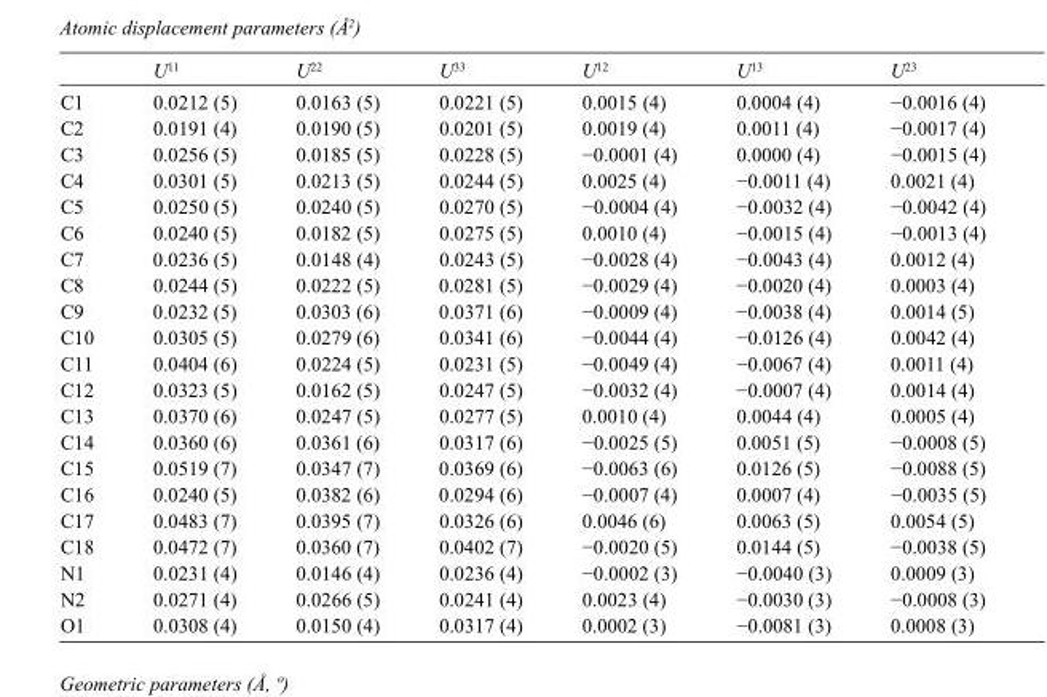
<table><thead><tr><td></td><td>U<sup>11</sup></td><td>U<sup>22</sup></td><td>U<sup>33</sup></td><td>U<sup>12</sup></td><td>U<sup>13</sup></td><td>U<sup>23</sup></td></tr></thead><tbody><tr><td>C1</td><td>0.0212 (5)</td><td>0.0163 (5)</td><td>0.0221 (5)</td><td>0.0015 (4)</td><td>0.0004 (4)</td><td>−0.0016 (4)</td></tr><tr><td>C2</td><td>0.0191 (4)</td><td>0.0190 (5)</td><td>0.0201 (5)</td><td>0.0019 (4)</td><td>0.0011 (4)</td><td>−0.0017 (4)</td></tr><tr><td>C3</td><td>0.0256 (5)</td><td>0.0185 (5)</td><td>0.0228 (5)</td><td>−0.0001 (4)</td><td>0.0000 (4)</td><td>−0.0015 (4)</td></tr><tr><td>C4</td><td>0.0301 (5)</td><td>0.0213 (5)</td><td>0.0244 (5)</td><td>0.0025 (4)</td><td>−0.0011 (4)</td><td>0.0021 (4)</td></tr><tr><td>C5</td><td>0.0250 (5)</td><td>0.0240 (5)</td><td>0.0270 (5)</td><td>−0.0004 (4)</td><td>−0.0032 (4)</td><td>−0.0042 (4)</td></tr><tr><td>C6</td><td>0.0240 (5)</td><td>0.0182 (5)</td><td>0.0275 (5)</td><td>0.0010 (4)</td><td>−0.0015 (4)</td><td>−0.0013 (4)</td></tr><tr><td>C7</td><td>0.0236 (5)</td><td>0.0148 (4)</td><td>0.0243 (5)</td><td>−0.0028 (4)</td><td>−0.0043 (4)</td><td>0.0012 (4)</td></tr><tr><td>C8</td><td>0.0244 (5)</td><td>0.0222 (5)</td><td>0.0281 (5)</td><td>−0.0029 (4)</td><td>−0.0020 (4)</td><td>0.0003 (4)</td></tr><tr><td>C9</td><td>0.0232 (5)</td><td>0.0303 (6)</td><td>0.0371 (6)</td><td>−0.0009 (4)</td><td>−0.0038 (4)</td><td>0.0014 (5)</td></tr><tr><td>C10</td><td>0.0305 (5)</td><td>0.0279 (6)</td><td>0.0341 (6)</td><td>−0.0044 (4)</td><td>−0.0126 (4)</td><td>0.0042 (4)</td></tr><tr><td>C11</td><td>0.0404 (6)</td><td>0.0224 (5)</td><td>0.0231 (5)</td><td>−0.0049 (4)</td><td>−0.0067 (4)</td><td>0.0011 (4)</td></tr><tr><td>C12</td><td>0.0323 (5)</td><td>0.0162 (5)</td><td>0.0247 (5)</td><td>−0.0032 (4)</td><td>−0.0007 (4)</td><td>0.0014 (4)</td></tr><tr><td>C13</td><td>0.0370 (6)</td><td>0.0247 (5)</td><td>0.0277 (5)</td><td>0.0010 (4)</td><td>0.0044 (4)</td><td>0.0005 (4)</td></tr><tr><td>C14</td><td>0.0360 (6)</td><td>0.0361 (6)</td><td>0.0317 (6)</td><td>−0.0025 (5)</td><td>0.0051 (5)</td><td>−0.0008 (5)</td></tr><tr><td>C15</td><td>0.0519 (7)</td><td>0.0347 (7)</td><td>0.0369 (6)</td><td>−0.0063 (6)</td><td>0.0126 (5)</td><td>−0.0088 (5)</td></tr><tr><td>C16</td><td>0.0240 (5)</td><td>0.0382 (6)</td><td>0.0294 (6)</td><td>−0.0007 (4)</td><td>0.0007 (4)</td><td>−0.0035 (5)</td></tr><tr><td>C17</td><td>0.0483 (7)</td><td>0.0395 (7)</td><td>0.0326 (6)</td><td>0.0046 (6)</td><td>0.0063 (5)</td><td>0.0054 (5)</td></tr><tr><td>C18</td><td>0.0472 (7)</td><td>0.0360 (7)</td><td>0.0402 (7)</td><td>−0.0020 (5)</td><td>0.0144 (5)</td><td>−0.0038 (5)</td></tr><tr><td>N1</td><td>0.0231 (4)</td><td>0.0146 (4)</td><td>0.0236 (4)</td><td>−0.0002 (3)</td><td>−0.0040 (3)</td><td>0.0009 (3)</td></tr><tr><td>N2</td><td>0.0271 (4)</td><td>0.0266 (5)</td><td>0.0241 (4)</td><td>0.0023 (4)</td><td>−0.0030 (3)</td><td>−0.0008 (3)</td></tr><tr><td>O1</td><td>0.0308 (4)</td><td>0.0150 (4)</td><td>0.0317 (4)</td><td>0.0002 (3)</td><td>−0.0081 (3)</td><td>0.0008 (3)</td></tr></tbody></table>